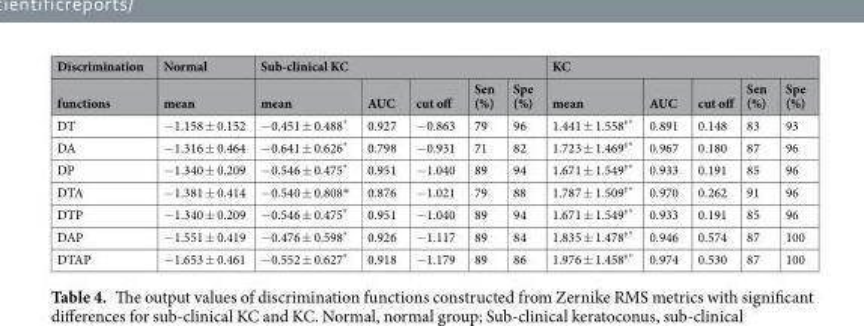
<table><thead><tr><td rowspan="2">Discrimination functions</td><td rowspan="2">Normal mean</td><td colspan="5">Sub-clinical KC</td><td colspan="5">KC</td></tr><tr><td>mean</td><td>AUC</td><td>cut off</td><td>Sen (%)</td><td>Spe (%)</td><td>mean</td><td>AUC</td><td>cut off</td><td>Sen (%)</td><td>Spe (%)</td></tr></thead><tbody><tr><td>DT</td><td>−1.158 ± 0.152</td><td>−0.451 ± 0.488*</td><td>0.927</td><td>−0.863</td><td>79</td><td>96</td><td>1.441 ± 1.558<sup>†*</sup></td><td>0.891</td><td>0.148</td><td>83</td><td>93</td></tr><tr><td>DA</td><td>−1.316 ± 0.464</td><td>−0.641 ± 0.626*</td><td>0.798</td><td>−0.931</td><td>71</td><td>82</td><td>1.723 ± 1.469<sup>†*</sup></td><td>0.967</td><td>0.180</td><td>87</td><td>96</td></tr><tr><td>DP</td><td>−1.340 ± 0.209</td><td>−0.546 ± 0.475*</td><td>0.951</td><td>−1.040</td><td>89</td><td>94</td><td>1.671 ± 1.549<sup>†*</sup></td><td>0.933</td><td>0.191</td><td>85</td><td>96</td></tr><tr><td>DTA</td><td>−1.381 ± 0.414</td><td>−0.540 ± 0.808*</td><td>0.876</td><td>−1.021</td><td>79</td><td>88</td><td>1.787 ± 1.509<sup>†*</sup></td><td>0.970</td><td>0.262</td><td>91</td><td>96</td></tr><tr><td>DTP</td><td>−1.340 ± 0.209</td><td>−0.546 ± 0.475*</td><td>0.951</td><td>−1.040</td><td>89</td><td>94</td><td>1.671 ± 1.549<sup>†*</sup></td><td>0.933</td><td>0.191</td><td>85</td><td>96</td></tr><tr><td>DAP</td><td>−1.551 ± 0.419</td><td>−0.476 ± 0.598*</td><td>0.926</td><td>−1.117</td><td>89</td><td>84</td><td>1.835 ± 1.478<sup>†*</sup></td><td>0.946</td><td>0.574</td><td>87</td><td>100</td></tr><tr><td>DTAP</td><td>−1.653 ± 0.461</td><td>−0.552 ± 0.627*</td><td>0.918</td><td>−1.179</td><td>89</td><td>86</td><td>1.976 ± 1.458<sup>†*</sup></td><td>0.974</td><td>0.530</td><td>87</td><td>100</td></tr></tbody></table>